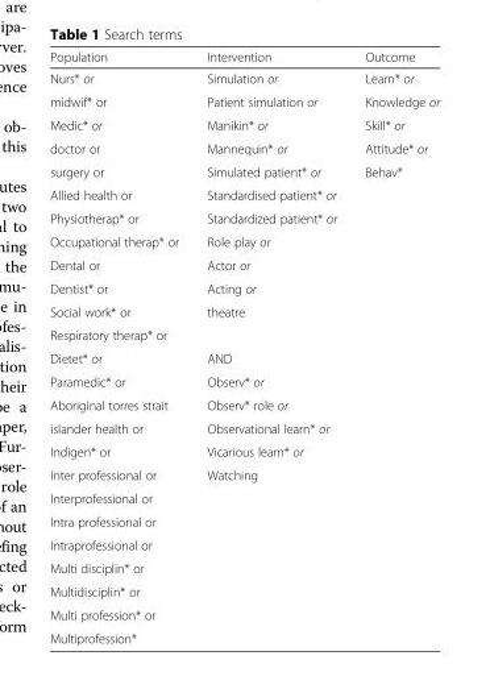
<table><thead><tr><td>Population</td><td>Intervention</td><td>Outcome</td></tr></thead><tbody><tr><td>Nurs* or</td><td>Simulation or</td><td>Learn* or</td></tr><tr><td>midwif* or</td><td>Patient simulation or</td><td>Knowledge or</td></tr><tr><td>Medic* or</td><td>Manikin* or</td><td>Skill* or</td></tr><tr><td>doctor or</td><td>Mannequin* or</td><td>Attitude* or</td></tr><tr><td>surgery or</td><td>Simulated patient* or</td><td rowspan="21">Behav*</td></tr><tr><td>Allied health or</td><td>Standardised patient* or</td></tr><tr><td>Physiotherap* or</td><td>Standardized patient* or</td></tr><tr><td>Occupational therap* or</td><td>Role play or</td></tr><tr><td>Dental or</td><td>Actor or</td></tr><tr><td>Dentist* or</td><td>Acting or</td></tr><tr><td>Social work* or</td><td>theatre</td></tr><tr><td colspan="2">Respiratory therap* or</td></tr><tr><td>Dietet* or</td><td>AND</td></tr><tr><td>Paramedic* or</td><td>Observ* or</td></tr><tr><td>Aboriginal torres strait</td><td>Observ* role or</td></tr><tr><td>islander health or</td><td>Observational learn* or</td></tr><tr><td>Indigen* or</td><td>Vicarious learn* or</td></tr><tr><td>Inter professional or</td><td rowspan="8">Watching</td></tr><tr><td>Interprofessional or</td></tr><tr><td>Intra professional or</td></tr><tr><td>Intraprofessional or</td></tr><tr><td>Multi disciplin* or</td></tr><tr><td>Multidisciplin* or</td></tr><tr><td>Multi profession* or</td></tr><tr><td>Multiprofession*</td></tr></tbody></table>